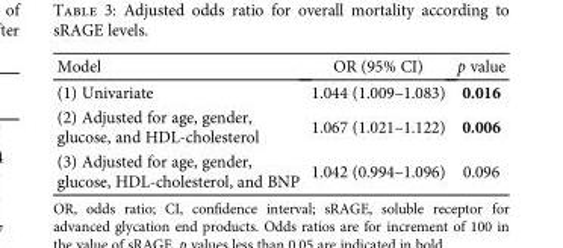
<table><thead><tr><td>Model</td><td>OR (95% CI)</td><td>p value</td></tr></thead><tbody><tr><td>(1) Univariate</td><td>1.044 (1.009–1.083)</td><td>0.016</td></tr><tr><td>(2) Adjusted for age, gender, glucose, and HDL-cholesterol</td><td>1.067 (1.021–1.122)</td><td>0.006</td></tr><tr><td>(3) Adjusted for age, gender, glucose, HDL-cholesterol, and BNP</td><td>1.042 (0.994–1.096)</td><td>0.096</td></tr></tbody></table>